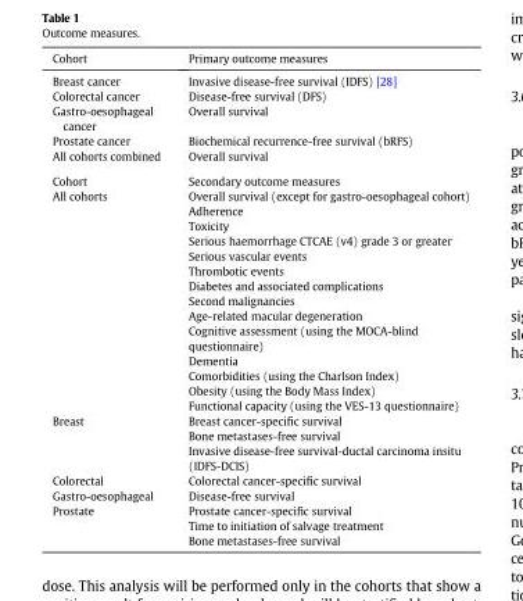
<table><thead><tr><td>Cohort</td><td>Primary outcome measures</td></tr></thead><tbody><tr><td>Breast cancer</td><td>Invasive disease-free survival (IDFS) [28]</td></tr><tr><td>Colorectal cancer</td><td>Disease-free survival (DFS)</td></tr><tr><td>Gastro-oesophageal cancer</td><td>Overall survival</td></tr><tr><td>Prostate cancer</td><td>Biochemical recurrence-free survival (bRFS)</td></tr><tr><td>All cohorts combined</td><td>Overall survival</td></tr><tr><td>Cohort</td><td>Secondary outcome measures</td></tr><tr><td rowspan="14">All cohorts</td><td>Overall survival (except for gastro-oesophageal cohort)</td></tr><tr><td>Adherence</td></tr><tr><td>Toxicity</td></tr><tr><td>Serious haemorrhage CTCAE (v4) grade 3 or greater</td></tr><tr><td>Serious vascular events</td></tr><tr><td>Thrombotic events</td></tr><tr><td>Diabetes and associated complications</td></tr><tr><td>Second malignancies</td></tr><tr><td>Age-related macular degeneration</td></tr><tr><td>Cognitive assessment (using the MOCA-blind questionnaire)</td></tr><tr><td>Dementia</td></tr><tr><td>Comorbidities (using the Charlson Index)</td></tr><tr><td>Obesity (using the Body Mass Index)</td></tr><tr><td>Functional capacity (using the VES-13 questionnaire)</td></tr><tr><td rowspan="3">Breast</td><td>Breast cancer-specific survival</td></tr><tr><td>Bone metastases-free survival</td></tr><tr><td>Invasive disease-free survival-ductal carcinoma insitu (IDFS-DCIS)</td></tr><tr><td>Colorectal</td><td>Colorectal cancer-specific survival</td></tr><tr><td>Gastro-oesophageal</td><td>Disease-free survival</td></tr><tr><td rowspan="3">Prostate</td><td>Prostate cancer-specific survival</td></tr><tr><td>Time to initiation of salvage treatment</td></tr><tr><td>Bone metastases-free survival</td></tr></tbody></table>